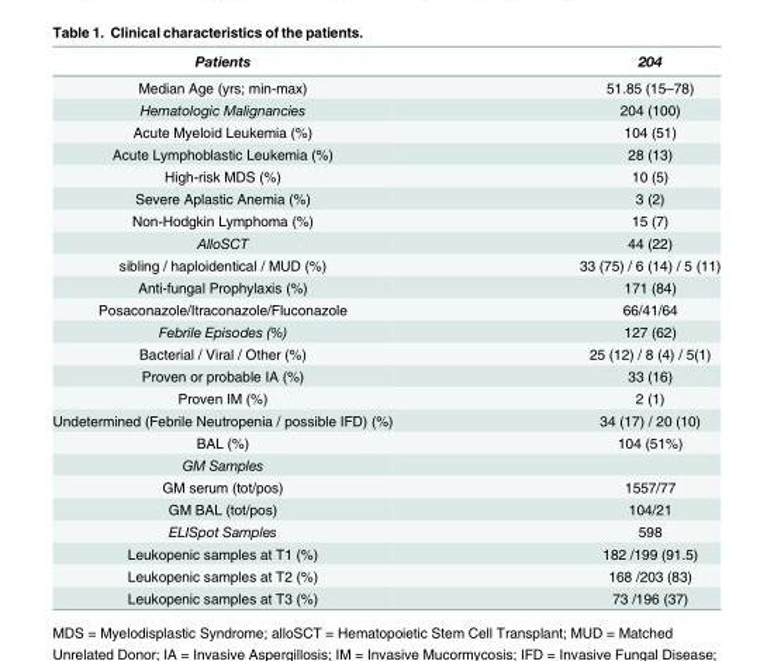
<table><thead><tr><td>Patients</td><td>204</td></tr></thead><tbody><tr><td>Median Age (yrs; min-max)</td><td>51.85 (15–78)</td></tr><tr><td>Hematologic Malignancies</td><td>204 (100)</td></tr><tr><td>Acute Myeloid Leukemia (%)</td><td>104 (51)</td></tr><tr><td>Acute Lymphoblastic Leukemia (%)</td><td>28 (13)</td></tr><tr><td>High-risk MDS (%)</td><td>10 (5)</td></tr><tr><td>Severe Aplastic Anemia (%)</td><td>3 (2)</td></tr><tr><td>Non-Hodgkin Lymphoma (%)</td><td>15 (7)</td></tr><tr><td>AlloSCT</td><td>44 (22)</td></tr><tr><td>sibling / haploidentical / MUD (%)</td><td>33 (75) / 6 (14) / 5 (11)</td></tr><tr><td>Anti-fungal Prophylaxis (%)</td><td>171 (84)</td></tr><tr><td>Posaconazole/Itraconazole/Fluconazole</td><td>66/41/64</td></tr><tr><td>Febrile Episodes (%)</td><td>127 (62)</td></tr><tr><td>Bacterial / Viral / Other (%)</td><td>25 (12) / 8 (4) / 5(1)</td></tr><tr><td>Proven or probable IA (%)</td><td>33 (16)</td></tr><tr><td>Proven IM (%)</td><td>2 (1)</td></tr><tr><td>Undetermined (Febrile Neutropenia / possible IFD) (%)</td><td>34 (17) / 20 (10)</td></tr><tr><td>BAL (%)</td><td>104 (51%)</td></tr><tr><td colspan="2">GM Samples</td></tr><tr><td>GM serum (tot/pos)</td><td>1557/77</td></tr><tr><td>GM BAL (tot/pos)</td><td>104/21</td></tr><tr><td>ELISpot Samples</td><td>598</td></tr><tr><td>Leukopenic samples at T1 (%)</td><td>182 /199 (91.5)</td></tr><tr><td>Leukopenic samples at T2 (%)</td><td>168 /203 (83)</td></tr><tr><td>Leukopenic samples at T3 (%)</td><td>73 /196 (37)</td></tr></tbody></table>